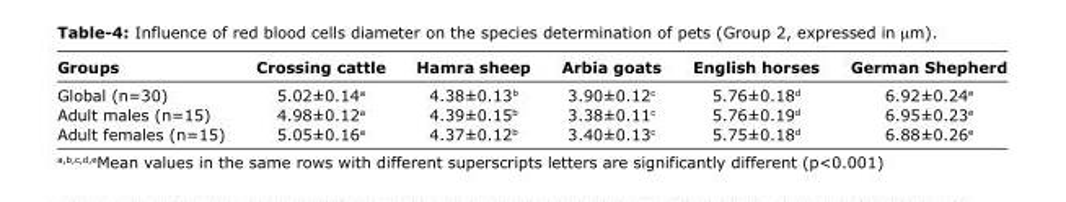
<table><thead><tr><td>Groups</td><td>Crossing cattle</td><td>Hamra sheep</td><td>Arbia goats</td><td>English horses</td><td>German Shepherd</td></tr></thead><tbody><tr><td>Global (n=30)</td><td>5.02±0.14<sup>a</sup></td><td>4.38±0.13<sup>b</sup></td><td>3.90±0.12<sup>c</sup></td><td>5.76±0.18<sup>d</sup></td><td>6.92±0.24<sup>e</sup></td></tr><tr><td>Adult males (n=15)</td><td>4.98±0.12<sup>a</sup></td><td>4.39±0.15<sup>b</sup></td><td>3.38±0.11<sup>c</sup></td><td>5.76±0.19<sup>d</sup></td><td>6.95±0.23<sup>e</sup></td></tr><tr><td>Adult females (n=15)</td><td>5.05±0.16<sup>a</sup></td><td>4.37±0.12<sup>b</sup></td><td>3.40±0.13<sup>c</sup></td><td>5.75±0.18<sup>d</sup></td><td>6.88±0.26<sup>e</sup></td></tr></tbody></table>